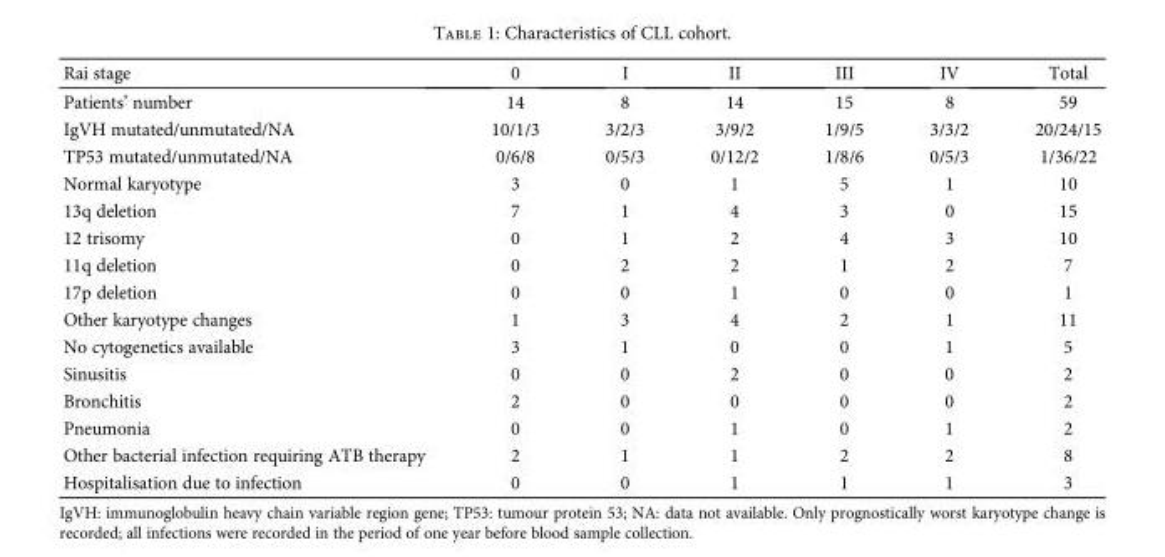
<table><thead><tr><td>Rai stage</td><td>0</td><td>I</td><td>II</td><td>III</td><td>IV</td><td>Total</td></tr></thead><tbody><tr><td>Patients’ number</td><td>14</td><td>8</td><td>14</td><td>15</td><td>8</td><td>59</td></tr><tr><td>IgVH mutated/unmutated/NA</td><td>10/1/3</td><td>3/2/3</td><td>3/9/2</td><td>1/9/5</td><td>3/3/2</td><td>20/24/15</td></tr><tr><td>TP53 mutated/unmutated/NA</td><td>0/6/8</td><td>0/5/3</td><td>0/12/2</td><td>1/8/6</td><td>0/5/3</td><td>1/36/22</td></tr><tr><td>Normal karyotype</td><td>3</td><td>0</td><td>1</td><td>5</td><td>1</td><td>10</td></tr><tr><td>13q deletion</td><td>7</td><td>1</td><td>4</td><td>3</td><td>0</td><td>15</td></tr><tr><td>12 trisomy</td><td>0</td><td>1</td><td>2</td><td>4</td><td>3</td><td>10</td></tr><tr><td>11q deletion</td><td>0</td><td>2</td><td>2</td><td>1</td><td>2</td><td>7</td></tr><tr><td>17p deletion</td><td>0</td><td>0</td><td>1</td><td>0</td><td>0</td><td>1</td></tr><tr><td>Other karyotype changes</td><td>1</td><td>3</td><td>4</td><td>2</td><td>1</td><td>11</td></tr><tr><td>No cytogenetics available</td><td>3</td><td>1</td><td>0</td><td>0</td><td>1</td><td>5</td></tr><tr><td>Sinusitis</td><td>0</td><td>0</td><td>2</td><td>0</td><td>0</td><td>2</td></tr><tr><td>Bronchitis</td><td>2</td><td>0</td><td>0</td><td>0</td><td>0</td><td>2</td></tr><tr><td>Pneumonia</td><td>0</td><td>0</td><td>1</td><td>0</td><td>1</td><td>2</td></tr><tr><td>Other bacterial infection requiring ATB therapy</td><td>2</td><td>1</td><td>1</td><td>2</td><td>2</td><td>8</td></tr><tr><td>Hospitalisation due to infection</td><td>0</td><td>0</td><td>1</td><td>1</td><td>1</td><td>3</td></tr></tbody></table>